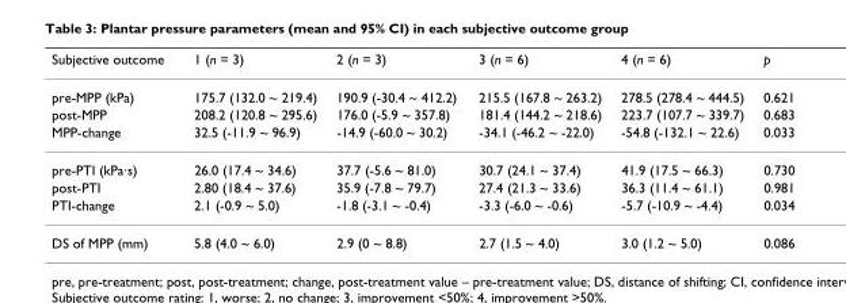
<table><thead><tr><td>Subjective outcome</td><td>1 (n = 3)</td><td>2 (n = 3)</td><td>3 (n = 6)</td><td>4 (n = 6)</td><td>p</td></tr></thead><tbody><tr><td>pre-MPP (kPa)</td><td>175.7 (132.0 ~ 219.4)</td><td>190.9 (-30.4 ~ 412.2)</td><td>215.5 (167.8 ~ 263.2)</td><td>278.5 (278.4 ~ 444.5)</td><td>0.621</td></tr><tr><td>post-MPP</td><td>208.2 (120.8 ~ 295.6)</td><td>176.0 (-5.9 ~ 357.8)</td><td>181.4 (144.2 ~ 218.6)</td><td>223.7 (107.7 ~ 339.7)</td><td>0.683</td></tr><tr><td>MPP-change</td><td>32.5 (-11.9 ~ 96.9)</td><td>-14.9 (-60.0 ~ 30.2)</td><td>-34.1 (-46.2 ~ -22.0)</td><td>-54.8 (-132.1 ~ 22.6)</td><td>0.033</td></tr><tr><td>pre-PTI (kPa·s)</td><td>26.0 (17.4 ~ 34.6)</td><td>37.7 (-5.6 ~ 81.0)</td><td>30.7 (24.1 ~ 37.4)</td><td>41.9 (17.5 ~ 66.3)</td><td>0.730</td></tr><tr><td>post-PTI</td><td>2.80 (18.4 ~ 37.6)</td><td>35.9 (-7.8 ~ 79.7)</td><td>27.4 (21.3 ~ 33.6)</td><td>36.3 (11.4 ~ 61.1)</td><td>0.981</td></tr><tr><td>PTI-change</td><td>2.1 (-0.9 ~ 5.0)</td><td>-1.8 (-3.1 ~ -0.4)</td><td>-3.3 (-6.0 ~ -0.6)</td><td>-5.7 (-10.9 ~ -4.4)</td><td>0.034</td></tr><tr><td>DS of MPP (mm)</td><td>5.8 (4.0 ~ 6.0)</td><td>2.9 (0 ~ 8.8)</td><td>2.7 (1.5 ~ 4.0)</td><td>3.0 (1.2 ~ 5.0)</td><td>0.086</td></tr></tbody></table>